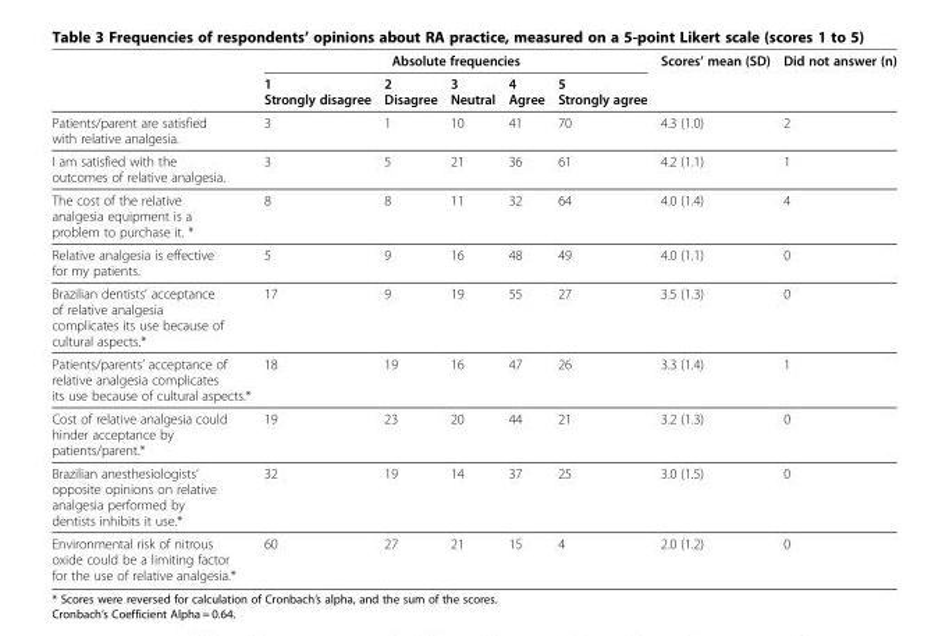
<table><thead><tr><td rowspan="2"></td><td colspan="5">Absolute frequencies</td><td rowspan="2">Scores’ mean (SD)</td><td rowspan="2">Did not answer (n)</td></tr><tr><td>1 Strongly disagree</td><td>2 Disagree</td><td>3 Neutral</td><td>4 Agree</td><td>5 Strongly agree</td></tr></thead><tbody><tr><td>Patients/parent are satisfied with relative analgesia.</td><td>3</td><td>1</td><td>10</td><td>41</td><td>70</td><td>4.3 (1.0)</td><td>2</td></tr><tr><td>I am satisfied with the outcomes of relative analgesia.</td><td>3</td><td>5</td><td>21</td><td>36</td><td>61</td><td>4.2 (1.1)</td><td>1</td></tr><tr><td>The cost of the relative analgesia equipment is a problem to purchase it. *</td><td>8</td><td>8</td><td>11</td><td>32</td><td>64</td><td>4.0 (1.4)</td><td>4</td></tr><tr><td>Relative analgesia is effective for my patients.</td><td>5</td><td>9</td><td>16</td><td>48</td><td>49</td><td>4.0 (1.1)</td><td>0</td></tr><tr><td>Brazilian dentists’ acceptance of relative analgesia complicates its use because of cultural aspects.*</td><td>17</td><td>9</td><td>19</td><td>55</td><td>27</td><td>3.5 (1.3)</td><td>0</td></tr><tr><td>Patients/parents’ acceptance of relative analgesia complicates its use because of cultural aspects.*</td><td>18</td><td>19</td><td>16</td><td>47</td><td>26</td><td>3.3 (1.4)</td><td>1</td></tr><tr><td>Cost of relative analgesia could hinder acceptance by patients/parent.*</td><td>19</td><td>23</td><td>20</td><td>44</td><td>21</td><td>3.2 (1.3)</td><td>0</td></tr><tr><td>Brazilian anesthesiologists’ opposite opinions on relative analgesia performed by dentists inhibits it use.*</td><td>32</td><td>19</td><td>14</td><td>37</td><td>25</td><td>3.0 (1.5)</td><td>0</td></tr><tr><td>Environmental risk of nitrous oxide could be a limiting factor for the use of relative analgesia.*</td><td>60</td><td>27</td><td>21</td><td>15</td><td>4</td><td>2.0 (1.2)</td><td>0</td></tr></tbody></table>